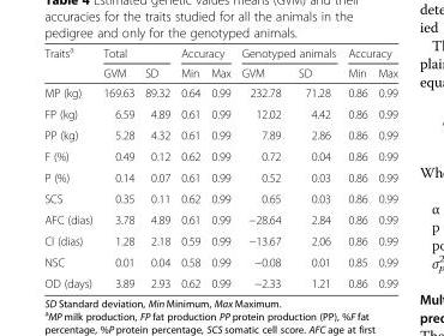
<table><thead><tr><td rowspan="2">Traits<sup>a</sup></td><td colspan="2">Total</td><td colspan="2">Accuracy</td><td colspan="2">Genotyped animals</td><td colspan="2">Accuracy</td></tr><tr><td>GVM</td><td>SD</td><td>Min</td><td>Max</td><td>GVM</td><td>SD</td><td>Min</td><td>Max</td></tr></thead><tbody><tr><td>MP (kg)</td><td>169.63</td><td>89.32</td><td>0.64</td><td>0.99</td><td>232.78</td><td>71.28</td><td>0.86</td><td>0.99</td></tr><tr><td>FP (kg)</td><td>6.59</td><td>4.89</td><td>0.61</td><td>0.99</td><td>12.02</td><td>4.42</td><td>0.86</td><td>0.99</td></tr><tr><td>PP (kg)</td><td>5.28</td><td>4.32</td><td>0.61</td><td>0.99</td><td>7.89</td><td>2.86</td><td>0.86</td><td>0.99</td></tr><tr><td>F (%)</td><td>0.49</td><td>0.12</td><td>0.62</td><td>0.99</td><td>0.72</td><td>0.04</td><td>0.86</td><td>0.99</td></tr><tr><td>P (%)</td><td>0.14</td><td>0.07</td><td>0.61</td><td>0.99</td><td>0.52</td><td>0.03</td><td>0.86</td><td>0.99</td></tr><tr><td>SCS</td><td>0.35</td><td>0.11</td><td>0.62</td><td>0.99</td><td>0.65</td><td>0.03</td><td>0.86</td><td>0.99</td></tr><tr><td>AFC (dias)</td><td>3.78</td><td>4.89</td><td>0.61</td><td>0.99</td><td>−28.64</td><td>2.84</td><td>0.86</td><td>0.99</td></tr><tr><td>CI (dias)</td><td>1.28</td><td>2.18</td><td>0.59</td><td>0.99</td><td>−13.67</td><td>2.06</td><td>0.86</td><td>0.99</td></tr><tr><td>NSC</td><td>0.01</td><td>0.04</td><td>0.58</td><td>0.99</td><td>−0.08</td><td>0.01</td><td>0.85</td><td>0.99</td></tr><tr><td>OD (days)</td><td>3.89</td><td>2.93</td><td>0.62</td><td>0.99</td><td>−2.33</td><td>1.21</td><td>0.86</td><td>0.99</td></tr></tbody></table>